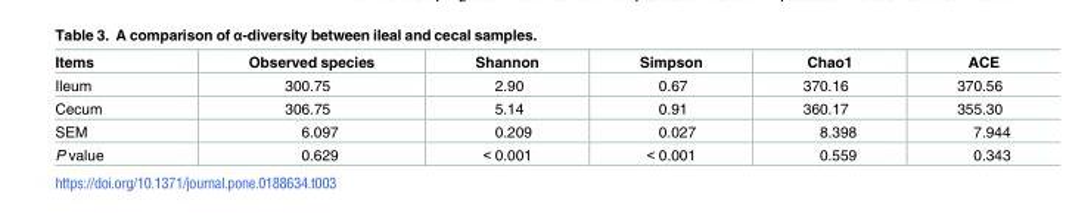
<table><thead><tr><td>Items</td><td>Observed species</td><td>Shannon</td><td>Simpson</td><td>Chao1</td><td>ACE</td></tr></thead><tbody><tr><td>Ileum</td><td>300.75</td><td>2.90</td><td>0.67</td><td>370.16</td><td>370.56</td></tr><tr><td>Cecum</td><td>306.75</td><td>5.14</td><td>0.91</td><td>360.17</td><td>355.30</td></tr><tr><td>SEM</td><td>6.097</td><td>0.209</td><td>0.027</td><td>8.398</td><td>7.944</td></tr><tr><td>P value</td><td>0.629</td><td>&lt; 0.001</td><td>&lt; 0.001</td><td>0.559</td><td>0.343</td></tr></tbody></table>